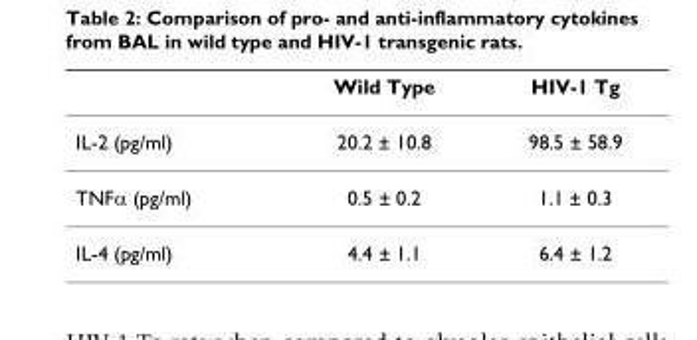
<table><thead><tr><td></td><td>Wild Type</td><td>HIV-1 Tg</td></tr></thead><tbody><tr><td>IL-2 (pg/ml)</td><td>20.2 ± 10.8</td><td>98.5 ± 58.9</td></tr><tr><td>TNFα (pg/ml)</td><td>0.5 ± 0.2</td><td>1.1 ± 0.3</td></tr><tr><td>IL-4 (pg/ml)</td><td>4.4 ± 1.1</td><td>6.4 ± 1.2</td></tr></tbody></table>